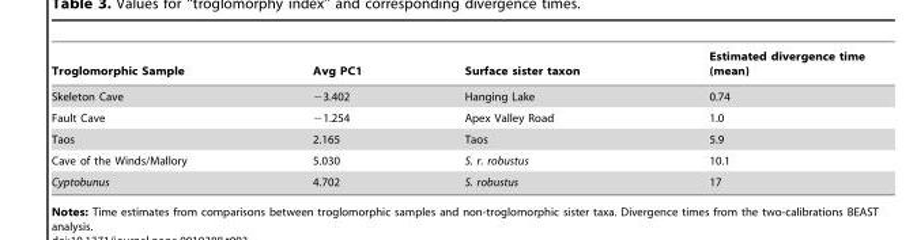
<table><thead><tr><td>Troglomorphic Sample</td><td>Avg PC1</td><td>Surface sister taxon</td><td>Estimated divergence time (mean)</td></tr></thead><tbody><tr><td>Skeleton Cave</td><td>−3.402</td><td>Hanging Lake</td><td>0.74</td></tr><tr><td>Fault Cave</td><td>−1.254</td><td>Apex Valley Road</td><td>1.0</td></tr><tr><td>Taos</td><td>2.165</td><td>Taos</td><td>5.9</td></tr><tr><td>Cave of the Winds/Mallory</td><td>5.030</td><td>S. r. robustus</td><td>10.1</td></tr><tr><td>Cyptobunus</td><td>4.702</td><td>S. robustus</td><td>17</td></tr></tbody></table>